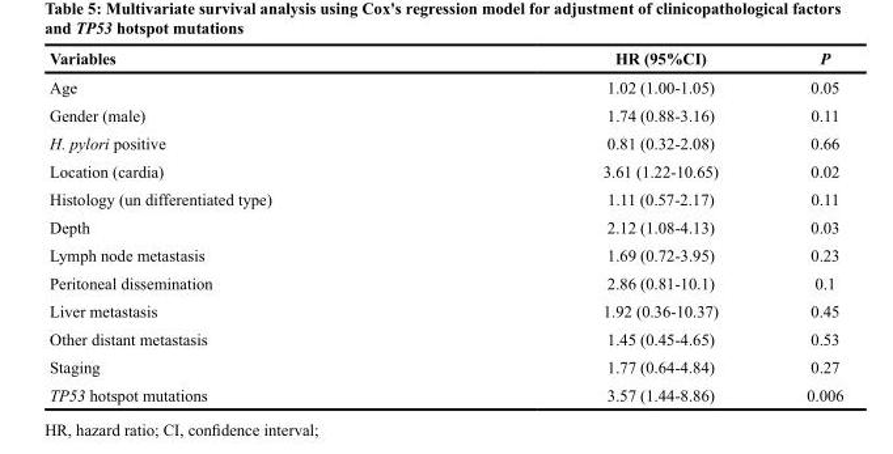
<table><thead><tr><td>Variables</td><td>HR (95%CI)</td><td>P</td></tr></thead><tbody><tr><td>Age</td><td>1.02 (1.00-1.05)</td><td>0.05</td></tr><tr><td>Gender (male)</td><td>1.74 (0.88-3.16)</td><td>0.11</td></tr><tr><td>H. pylori positive</td><td>0.81 (0.32-2.08)</td><td>0.66</td></tr><tr><td>Location (cardia)</td><td>3.61 (1.22-10.65)</td><td>0.02</td></tr><tr><td>Histology (un differentiated type)</td><td>1.11 (0.57-2.17)</td><td>0.11</td></tr><tr><td>Depth</td><td>2.12 (1.08-4.13)</td><td>0.03</td></tr><tr><td>Lymph node metastasis</td><td>1.69 (0.72-3.95)</td><td>0.23</td></tr><tr><td>Peritoneal dissemination</td><td>2.86 (0.81-10.1)</td><td>0.1</td></tr><tr><td>Liver metastasis</td><td>1.92 (0.36-10.37)</td><td>0.45</td></tr><tr><td>Other distant metastasis</td><td>1.45 (0.45-4.65)</td><td>0.53</td></tr><tr><td>Staging</td><td>1.77 (0.64-4.84)</td><td>0.27</td></tr><tr><td>TP53 hotspot mutations</td><td>3.57 (1.44-8.86)</td><td>0.006</td></tr></tbody></table>